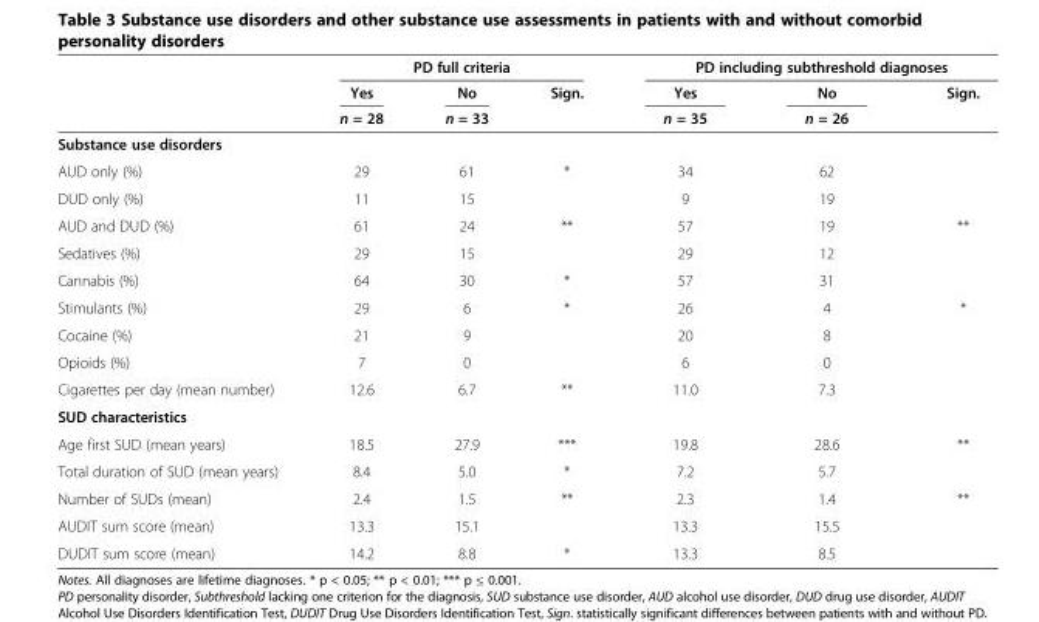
<table><thead><tr><td rowspan="3"></td><td colspan="3">PD full criteria</td><td colspan="3">PD including subthreshold diagnoses</td></tr><tr><td rowspan="2">Yes n = 28</td><td rowspan="2">No n = 33</td><td rowspan="2">Sign.</td><td rowspan="2">Yes n = 35</td><td rowspan="2">No n = 26</td><td rowspan="2">Sign.</td></tr><tr></tr></thead><tbody><tr><td colspan="7">Substance use disorders</td></tr><tr><td>AUD only (%)</td><td>29</td><td>61</td><td>*</td><td>34</td><td>62</td><td></td></tr><tr><td>DUD only (%)</td><td>11</td><td>15</td><td></td><td>9</td><td>19</td><td></td></tr><tr><td>AUD and DUD (%)</td><td>61</td><td>24</td><td>**</td><td>57</td><td>19</td><td>**</td></tr><tr><td>Sedatives (%)</td><td>29</td><td>15</td><td></td><td>29</td><td>12</td><td></td></tr><tr><td>Cannabis (%)</td><td>64</td><td>30</td><td>*</td><td>57</td><td>31</td><td></td></tr><tr><td>Stimulants (%)</td><td>29</td><td>6</td><td>*</td><td>26</td><td>4</td><td>*</td></tr><tr><td>Cocaine (%)</td><td>21</td><td>9</td><td></td><td>20</td><td>8</td><td></td></tr><tr><td>Opioids (%)</td><td>7</td><td>0</td><td></td><td>6</td><td>0</td><td></td></tr><tr><td>Cigarettes per day (mean number)</td><td>12.6</td><td>6.7</td><td>**</td><td>11.0</td><td>7.3</td><td></td></tr><tr><td colspan="7">SUD characteristics</td></tr><tr><td>Age first SUD (mean years)</td><td>18.5</td><td>27.9</td><td>***</td><td>19.8</td><td>28.6</td><td>**</td></tr><tr><td>Total duration of SUD (mean years)</td><td>8.4</td><td>5.0</td><td>*</td><td>7.2</td><td>5.7</td><td></td></tr><tr><td>Number of SUDs (mean)</td><td>2.4</td><td>1.5</td><td>**</td><td>2.3</td><td>1.4</td><td>**</td></tr><tr><td>AUDIT sum score (mean)</td><td>13.3</td><td>15.1</td><td></td><td>13.3</td><td>15.5</td><td></td></tr><tr><td>DUDIT sum score (mean)</td><td>14.2</td><td>8.8</td><td>*</td><td>13.3</td><td>8.5</td><td></td></tr></tbody></table>